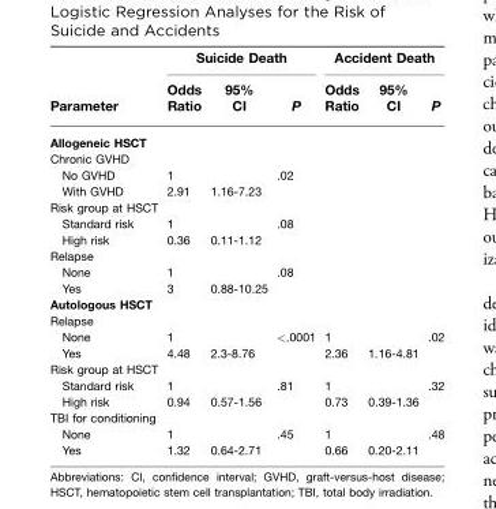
<table><thead><tr><td rowspan="2">Parameter</td><td colspan="3">Suicide Death</td><td colspan="3">Accident Death</td></tr><tr><td>Odds Ratio</td><td>95% CI</td><td>P</td><td>Odds Ratio</td><td>95% CI</td><td>P</td></tr></thead><tbody><tr><td colspan="7">Allogeneic HSCT</td></tr><tr><td colspan="7">Chronic GVHD</td></tr><tr><td>No GVHD</td><td>1</td><td></td><td>.02</td><td></td><td></td><td></td></tr><tr><td>With GVHD</td><td>2.91</td><td>1.16-7.23</td><td></td><td></td><td></td><td></td></tr><tr><td colspan="7">Risk group at HSCT</td></tr><tr><td>Standard risk</td><td>1</td><td></td><td>.08</td><td></td><td></td><td></td></tr><tr><td>High risk</td><td>0.36</td><td>0.11-1.12</td><td></td><td></td><td></td><td></td></tr><tr><td colspan="7">Relapse</td></tr><tr><td>None</td><td>1</td><td></td><td>.08</td><td></td><td></td><td></td></tr><tr><td>Yes</td><td>3</td><td>0.88-10.25</td><td></td><td></td><td></td><td></td></tr><tr><td colspan="7">Autologous HSCT</td></tr><tr><td colspan="7">Relapse</td></tr><tr><td>None</td><td>1</td><td></td><td>&lt;.0001</td><td>1</td><td></td><td>.02</td></tr><tr><td>Yes</td><td>4.48</td><td>2.3-8.76</td><td></td><td>2.36</td><td>1.16-4.81</td><td></td></tr><tr><td colspan="7">Risk group at HSCT</td></tr><tr><td>Standard risk</td><td>1</td><td></td><td>.81</td><td>1</td><td></td><td>.32</td></tr><tr><td>High risk</td><td>0.94</td><td>0.57-1.56</td><td></td><td>0.73</td><td>0.39-1.36</td><td></td></tr><tr><td colspan="7">TBI for conditioning</td></tr><tr><td>None</td><td>1</td><td></td><td>.45</td><td>1</td><td></td><td>.48</td></tr><tr><td>Yes</td><td>1.32</td><td>0.64-2.71</td><td></td><td>0.66</td><td>0.20-2.11</td><td></td></tr></tbody></table>